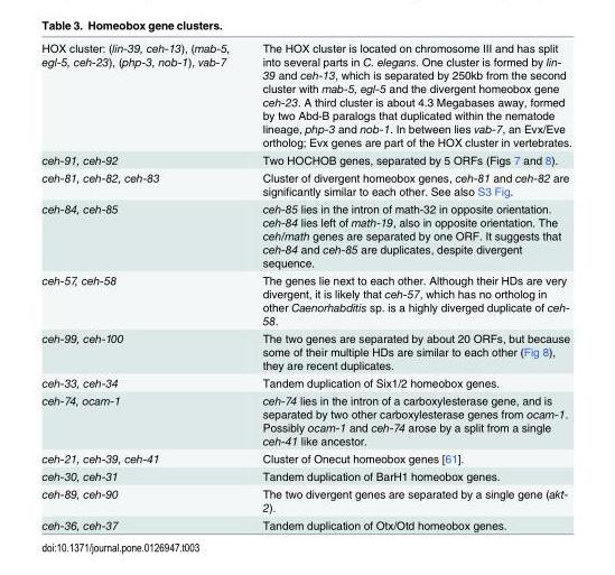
<table><tbody><tr><td>HOX cluster: (lin-39, ceh-13), (mab-5, egl-5, ceh-23), (php-3, nob-1), vab-7</td><td>The HOX cluster is located on chromosome III and has split into several parts in C. elegans. One cluster is formed by lin- 39 and ceh-13, which is separated by 250kb from the second cluster with mab-5, egl-5 and the divergent homeobox gene ceh-23. A third cluster is about 4.3 Megabases away, formed by two Abd-B paralogs that duplicated within the nematode lineage, php-3 and nob-1. In between lies vab-7, an Evx/Eve ortholog; Evx genes are part of the HOX cluster in vertebrates.</td></tr><tr><td>ceh-91, ceh-92</td><td>Two HOCHOB genes, separated by 5 ORFs (Figs 7 and 8).</td></tr><tr><td>ceh-81, ceh-82, ceh-83</td><td>Cluster of divergent homeobox genes, ceh-81 and ceh-82 are significantly similar to each other. See also S3 Fig.</td></tr><tr><td>ceh-84, ceh-85</td><td>ceh-85 lies in the intron of math-32 in opposite orientation. ceh-84 lies left of math-19, also in opposite orientation. The ceh/math genes are separated by one ORF. It suggests that ceh-84 and ceh-85 are duplicates, despite divergent sequence.</td></tr><tr><td>ceh-57, ceh-58</td><td>The genes lie next to each other. Although their HDs are very divergent, it is likely that ceh-57, which has no ortholog in other Caenorhabditis sp. is a highly diverged duplicate of ceh- 58.</td></tr><tr><td>ceh-99, ceh-100</td><td>The two genes are separated by about 20 ORFs, but because some of their multiple HDs are similar to each other (Fig 8), they are recent duplicates.</td></tr><tr><td>ceh-33, ceh-34</td><td>Tandem duplication of Six1/2 homeobox genes.</td></tr><tr><td>ceh-74, ocam-1</td><td>ceh-74 lies in the intron of a carboxylesterase gene, and is separated by two other carboxylesterase genes from ocam-1. Possibly ocam-1 and ceh-74 arose by a split from a single ceh-41 like ancestor.</td></tr><tr><td>ceh-21, ceh-39, ceh-41</td><td>Cluster of Onecut homeobox genes [61].</td></tr><tr><td>ceh-30, ceh-31</td><td>Tandem duplication of BarH1 homeobox genes.</td></tr><tr><td>ceh-89, ceh-90</td><td>The two divergent genes are separated by a single gene (akt- 2).</td></tr><tr><td>ceh-36, ceh-37</td><td>Tandem duplication of Otx/Otd homeobox genes.</td></tr></tbody></table>